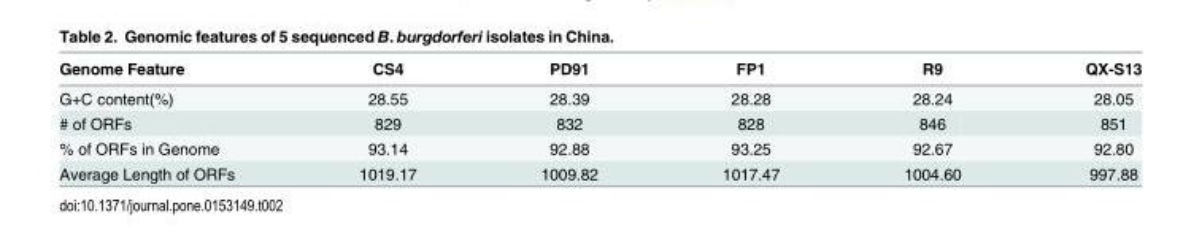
<table><thead><tr><td>Genome Feature</td><td>CS4</td><td>PD91</td><td>FP1</td><td>R9</td><td>QX-S13</td></tr></thead><tbody><tr><td>G+C content(%)</td><td>28.55</td><td>28.39</td><td>28.28</td><td>28.24</td><td>28.05</td></tr><tr><td># of ORFs</td><td>829</td><td>832</td><td>828</td><td>846</td><td>851</td></tr><tr><td>% of ORFs in Genome</td><td>93.14</td><td>92.88</td><td>93.25</td><td>92.67</td><td>92.80</td></tr><tr><td>Average Length of ORFs</td><td>1019.17</td><td>1009.82</td><td>1017.47</td><td>1004.60</td><td>997.88</td></tr></tbody></table>